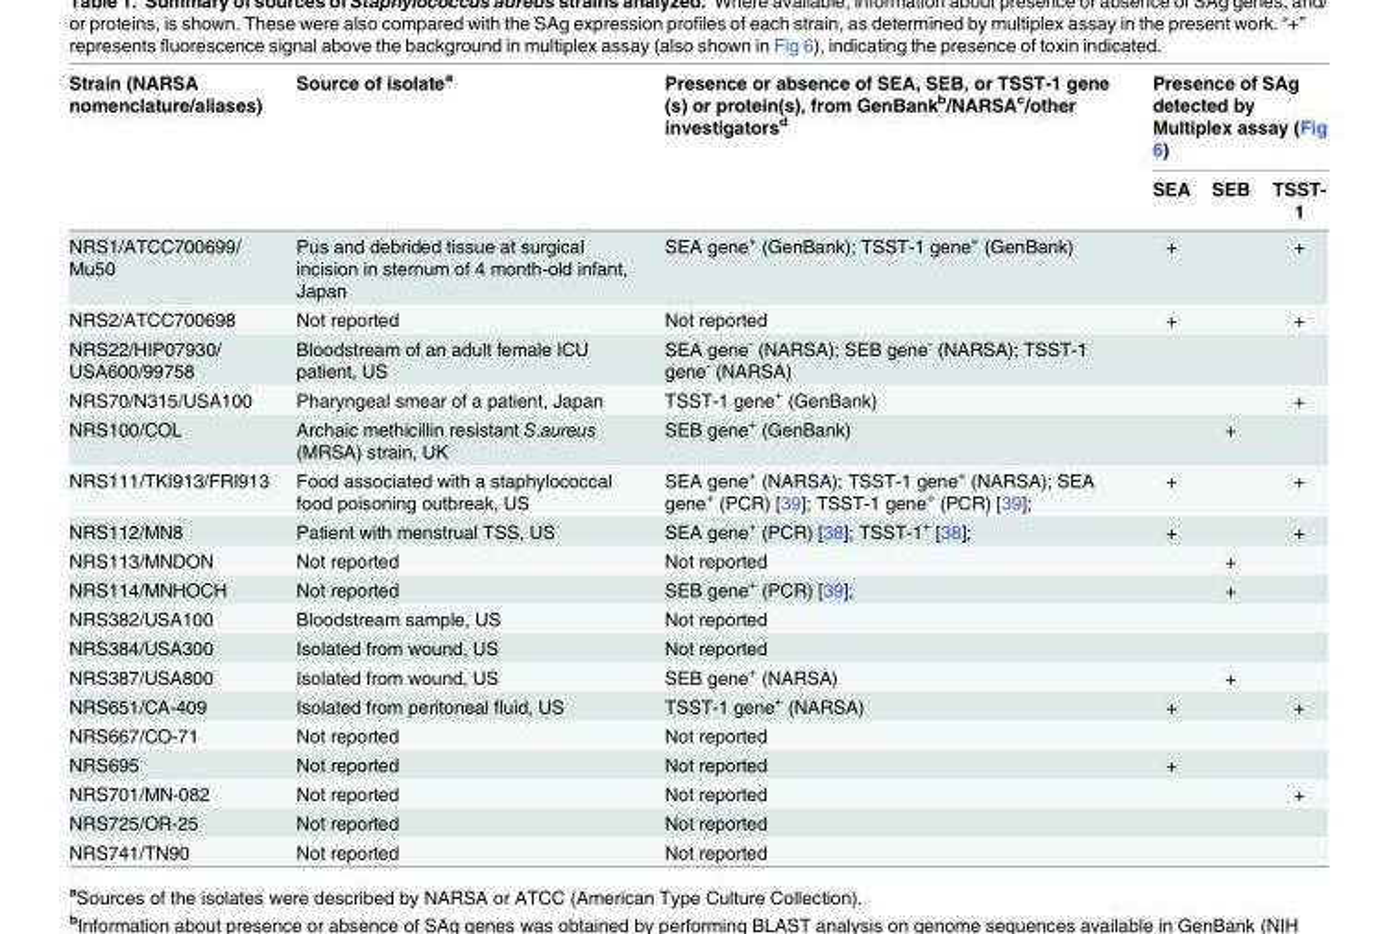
<table><thead><tr><td rowspan="2">Strain (NARSA nomenclature/aliases)</td><td rowspan="2">Source of isolate<sup>a</sup></td><td rowspan="2">Presence or absence of SEA, SEB, or TSST-1 gene (s) or protein(s), from GenBank<sup>b</sup>/NARSA<sup>c</sup>/other investigators<sup>d</sup></td><td colspan="3">Presence of SAg detected by Multiplex assay (Fig 6)</td></tr><tr><td>SEA</td><td>SEB</td><td>TSST- 1</td></tr></thead><tbody><tr><td>NRS1/ATCC700699/ Mu50</td><td>Pus and debrided tissue at surgical incision in sternum of 4 month-old infant, Japan</td><td>SEA gene<sup>+</sup> (GenBank); TSST-1 gene<sup>+</sup> (GenBank)</td><td>+</td><td></td><td>+</td></tr><tr><td>NRS2/ATCC700698</td><td>Not reported</td><td>Not reported</td><td>+</td><td></td><td>+</td></tr><tr><td>NRS22/HIP07930/ USA600/99758</td><td>Bloodstream of an adult female ICU patient, US</td><td>SEA gene<sup>-</sup> (NARSA); SEB gene<sup>-</sup> (NARSA); TSST-1 gene<sup>-</sup> (NARSA)</td><td></td><td></td><td></td></tr><tr><td>NRS70/N315/USA100</td><td>Pharyngeal smear of a patient, Japan</td><td>TSST-1 gene<sup>+</sup> (GenBank)</td><td></td><td></td><td>+</td></tr><tr><td>NRS100/COL</td><td>Archaic methicillin resistant S.aureus (MRSA) strain, UK</td><td>SEB gene<sup>+</sup> (GenBank)</td><td></td><td>+</td><td></td></tr><tr><td>NRS111/TKI913/FRI913</td><td>Food associated with a staphylococcal food poisoning outbreak, US</td><td>SEA gene<sup>+</sup> (NARSA); TSST-1 gene<sup>+</sup> (NARSA); SEA gene<sup>+</sup> (PCR) [39]; TSST-1 gene<sup>+</sup> (PCR) [39];</td><td>+</td><td></td><td>+</td></tr><tr><td>NRS112/MN8</td><td>Patient with menstrual TSS, US</td><td>SEA gene<sup>+</sup> (PCR) [38]; TSST-1<sup>+</sup> [38];</td><td>+</td><td></td><td>+</td></tr><tr><td>NRS113/MNDON</td><td>Not reported</td><td>Not reported</td><td></td><td>+</td><td></td></tr><tr><td>NRS114/MNHOCH</td><td>Not reported</td><td>SEB gene<sup>+</sup> (PCR) [39];</td><td></td><td>+</td><td></td></tr><tr><td>NRS382/USA100</td><td>Bloodstream sample, US</td><td>Not reported</td><td></td><td></td><td></td></tr><tr><td>NRS384/USA300</td><td>Isolated from wound, US</td><td>Not reported</td><td></td><td></td><td></td></tr><tr><td>NRS387/USA800</td><td>Isolated from wound, US</td><td>SEB gene<sup>+</sup> (NARSA)</td><td></td><td>+</td><td></td></tr><tr><td>NRS651/CA-409</td><td>Isolated from peritoneal fluid, US</td><td>TSST-1 gene<sup>+</sup> (NARSA)</td><td>+</td><td></td><td>+</td></tr><tr><td>NRS667/CO-71</td><td>Not reported</td><td>Not reported</td><td></td><td></td><td></td></tr><tr><td>NRS695</td><td>Not reported</td><td>Not reported</td><td>+</td><td></td><td></td></tr><tr><td>NRS701/MN-082</td><td>Not reported</td><td>Not reported</td><td></td><td></td><td>+</td></tr><tr><td>NRS725/OR-25</td><td>Not reported</td><td>Not reported</td><td></td><td></td><td></td></tr><tr><td>NRS741/TN90</td><td>Not reported</td><td>Not reported</td><td></td><td></td><td></td></tr></tbody></table>